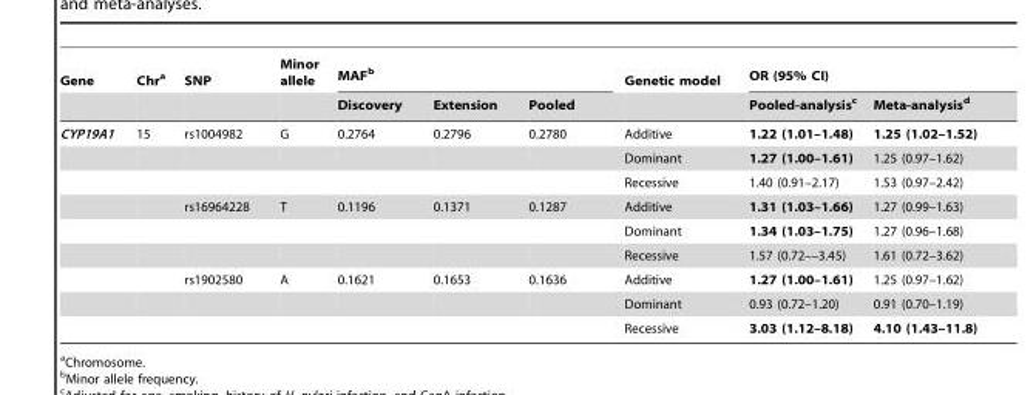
<table><thead><tr><td rowspan="2">Gene</td><td rowspan="2">Chr<sup>a</sup></td><td rowspan="2">SNP</td><td rowspan="2">Minor allele</td><td colspan="3">MAF<sup>b</sup></td><td rowspan="2">Genetic model</td><td colspan="2">OR (95% CI)</td></tr><tr><td>Discovery</td><td>Extension</td><td>Pooled</td><td>Pooled-analysis<sup>c</sup></td><td>Meta-analysis<sup>d</sup></td></tr></thead><tbody><tr><td rowspan="9">CYP19A1</td><td>15</td><td>rs1004982</td><td>G</td><td>0.2764</td><td>0.2796</td><td>0.2780</td><td>Additive</td><td>1.22 (1.01–1.48)</td><td>1.25 (1.02–1.52)</td></tr><tr><td></td><td></td><td></td><td></td><td></td><td></td><td>Dominant</td><td>1.27 (1.00–1.61)</td><td>1.25 (0.97–1.62)</td></tr><tr><td></td><td></td><td></td><td></td><td></td><td></td><td>Recessive</td><td>1.40 (0.91–2.17)</td><td>1.53 (0.97–2.42)</td></tr><tr><td></td><td>rs16964228</td><td>T</td><td>0.1196</td><td>0.1371</td><td>0.1287</td><td>Additive</td><td>1.31 (1.03–1.66)</td><td>1.27 (0.99–1.63)</td></tr><tr><td></td><td></td><td></td><td></td><td></td><td></td><td>Dominant</td><td>1.34 (1.03–1.75)</td><td>1.27 (0.96–1.68)</td></tr><tr><td></td><td></td><td></td><td></td><td></td><td></td><td>Recessive</td><td>1.57 (0.72––3.45)</td><td>1.61 (0.72–3.62)</td></tr><tr><td></td><td>rs1902580</td><td>A</td><td>0.1621</td><td>0.1653</td><td>0.1636</td><td>Additive</td><td>1.27 (1.00–1.61)</td><td>1.25 (0.97–1.62)</td></tr><tr><td></td><td></td><td></td><td></td><td></td><td></td><td>Dominant</td><td>0.93 (0.72–1.20)</td><td>0.91 (0.70–1.19)</td></tr><tr><td></td><td></td><td></td><td></td><td></td><td></td><td>Recessive</td><td>3.03 (1.12–8.18)</td><td>4.10 (1.43–11.8)</td></tr></tbody></table>